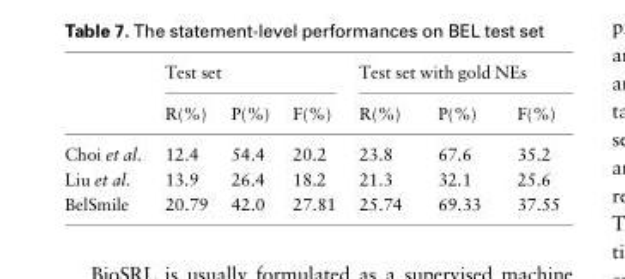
<table><thead><tr><td rowspan="2"></td><td colspan="3">Test set</td><td colspan="3">Test set with gold NEs</td></tr><tr><td>R(%)</td><td>P(%)</td><td>F(%)</td><td>R(%)</td><td>P(%)</td><td>F(%)</td></tr></thead><tbody><tr><td>Choi et al.</td><td>12.4</td><td>54.4</td><td>20.2</td><td>23.8</td><td>67.6</td><td>35.2</td></tr><tr><td>Liu et al.</td><td>13.9</td><td>26.4</td><td>18.2</td><td>21.3</td><td>32.1</td><td>25.6</td></tr><tr><td>BelSmile</td><td>20.79</td><td>42.0</td><td>27.81</td><td>25.74</td><td>69.33</td><td>37.55</td></tr></tbody></table>